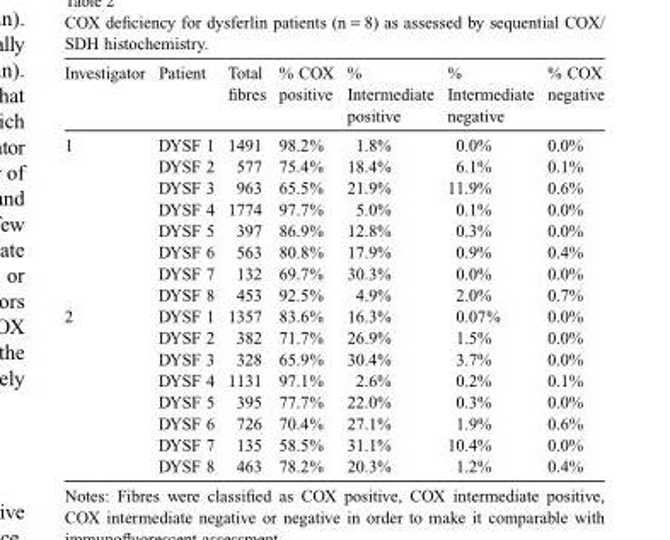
<table><thead><tr><td>Investigator</td><td>Patient</td><td>Total fibres</td><td>% COX positive</td><td>% Intermediate positive</td><td>% Intermediate negative</td><td>% COX negative</td></tr></thead><tbody><tr><td rowspan="8">1</td><td>DYSF 1</td><td>1491</td><td>98.2%</td><td>1.8%</td><td>0.0%</td><td>0.0%</td></tr><tr><td>DYSF 2</td><td>577</td><td>75.4%</td><td>18.4%</td><td>6.1%</td><td>0.1%</td></tr><tr><td>DYSF 3</td><td>963</td><td>65.5%</td><td>21.9%</td><td>11.9%</td><td>0.6%</td></tr><tr><td>DYSF 4</td><td>1774</td><td>97.7%</td><td>5.0%</td><td>0.1%</td><td>0.0%</td></tr><tr><td>DYSF 5</td><td>397</td><td>86.9%</td><td>12.8%</td><td>0.3%</td><td>0.0%</td></tr><tr><td>DYSF 6</td><td>563</td><td>80.8%</td><td>17.9%</td><td>0.9%</td><td>0.4%</td></tr><tr><td>DYSF 7</td><td>132</td><td>69.7%</td><td>30.3%</td><td>0.0%</td><td>0.0%</td></tr><tr><td>DYSF 8</td><td>453</td><td>92.5%</td><td>4.9%</td><td>2.0%</td><td>0.7%</td></tr><tr><td rowspan="8">2</td><td>DYSF 1</td><td>1357</td><td>83.6%</td><td>16.3%</td><td>0.07%</td><td>0.0%</td></tr><tr><td>DYSF 2</td><td>382</td><td>71.7%</td><td>26.9%</td><td>1.5%</td><td>0.0%</td></tr><tr><td>DYSF 3</td><td>328</td><td>65.9%</td><td>30.4%</td><td>3.7%</td><td>0.0%</td></tr><tr><td>DYSF 4</td><td>1131</td><td>97.1%</td><td>2.6%</td><td>0.2%</td><td>0.1%</td></tr><tr><td>DYSF 5</td><td>395</td><td>77.7%</td><td>22.0%</td><td>0.3%</td><td>0.0%</td></tr><tr><td>DYSF 6</td><td>726</td><td>70.4%</td><td>27.1%</td><td>1.9%</td><td>0.6%</td></tr><tr><td>DYSF 7</td><td>135</td><td>58.5%</td><td>31.1%</td><td>10.4%</td><td>0.0%</td></tr><tr><td>DYSF 8</td><td>463</td><td>78.2%</td><td>20.3%</td><td>1.2%</td><td>0.4%</td></tr></tbody></table>